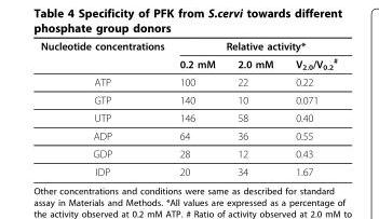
<table><thead><tr><td rowspan="2">Nucleotide concentrations</td><td colspan="3">Relative activity*</td></tr><tr><td>0.2 mM</td><td>2.0 mM</td><td>V<sub>2.0</sub>/V<sub>0.2</sub> <sup>#</sup></td></tr></thead><tbody><tr><td>ATP</td><td>100</td><td>22</td><td>0.22</td></tr><tr><td>GTP</td><td>140</td><td>10</td><td>0.071</td></tr><tr><td>UTP</td><td>146</td><td>58</td><td>0.40</td></tr><tr><td>ADP</td><td>64</td><td>36</td><td>0.55</td></tr><tr><td>GDP</td><td>28</td><td>12</td><td>0.43</td></tr><tr><td>IDP</td><td>20</td><td>34</td><td>1.67</td></tr></tbody></table>